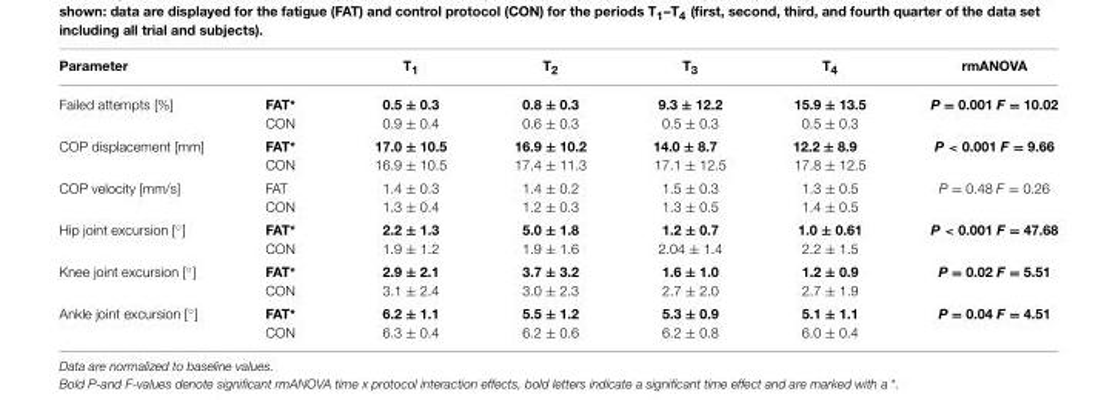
<table><thead><tr><td>Parameter</td><td></td><td>T<sub>1</sub></td><td>T<sub>2</sub></td><td>T<sub>3</sub></td><td>T<sub>4</sub></td><td>rmANOVA</td></tr></thead><tbody><tr><td>Failed attempts [%]</td><td>FAT* CON</td><td>0.5 ± 0.3 0.9 ± 0.4</td><td>0.8 ± 0.3 0.6 ± 0.3</td><td>9.3 ± 12.2 0.5 ± 0.3</td><td>15.9 ± 13.5 0.5 ± 0.3</td><td>P = 0.001 F = 10.02</td></tr><tr><td>COP displacement [mm]</td><td>FAT* CON</td><td>17.0 ± 10.5 16.9 ± 10.5</td><td>16.9 ± 10.2 17.4 ± 11.3</td><td>14.0 ± 8.7 17.1 ± 12.5</td><td>12.2 ± 8.9 17.8 ± 12.5</td><td>P &lt; 0.001 F = 9.66</td></tr><tr><td>COP velocity [mm/s]</td><td>FAT CON</td><td>1.4 ± 0.3 1.3 ± 0.4</td><td>1.4 ± 0.2 1.2 ± 0.3</td><td>1.5 ± 0.3 1.3 ± 0.5</td><td>1.3 ± 0.5 1.4 ± 0.5</td><td>P = 0.48 F = 0.26</td></tr><tr><td>Hip joint excursion [◦]</td><td>FAT* CON</td><td>2.2 ± 1.3 1.9 ± 1.2</td><td>5.0 ± 1.8 1.9 ± 1.6</td><td>1.2 ± 0.7 2.04 ± 1.4</td><td>1.0 ± 0.61 2.2 ± 1.5</td><td>P &lt; 0.001 F = 47.68</td></tr><tr><td>Knee joint excursion [◦]</td><td>FAT* CON</td><td>2.9 ± 2.1 3.1 ± 2.4</td><td>3.7 ± 3.2 3.0 ± 2.3</td><td>1.6 ± 1.0 2.7 ± 2.0</td><td>1.2 ± 0.9 2.7 ± 1.9</td><td>P = 0.02 F = 5.51</td></tr><tr><td>Ankle joint excursion [◦]</td><td>FAT* CON</td><td>6.2 ± 1.1 6.3 ± 0.4</td><td>5.5 ± 1.2 6.2 ± 0.6</td><td>5.3 ± 0.9 6.2 ± 0.8</td><td>5.1 ± 1.1 6.0 ± 0.4</td><td>P = 0.04 F = 4.51</td></tr></tbody></table>